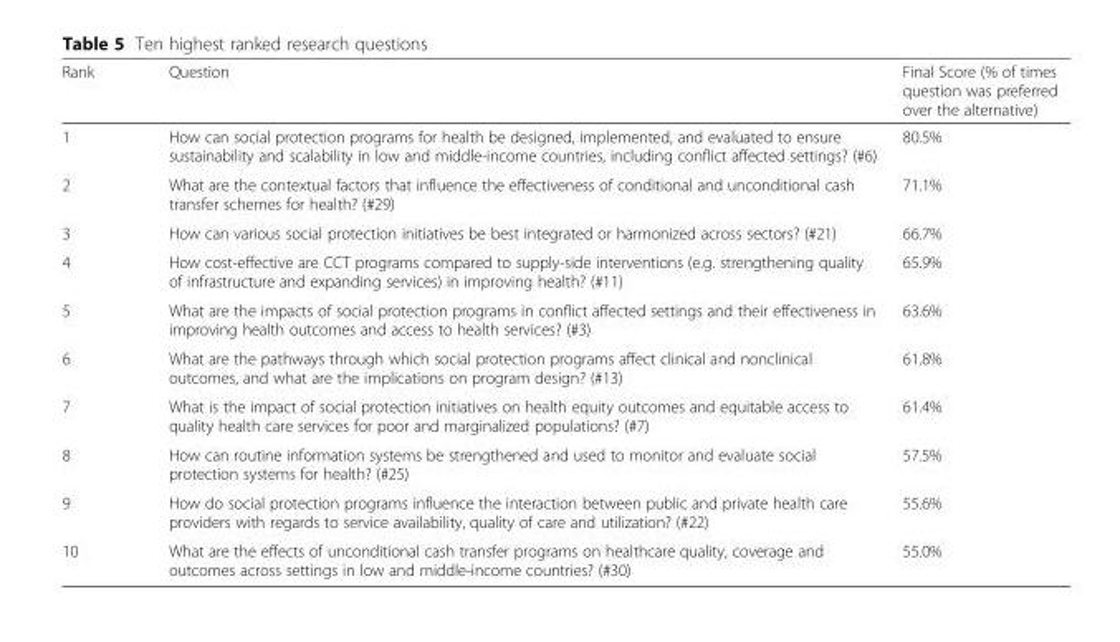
<table><thead><tr><td>Rank</td><td>Question</td><td>Final Score (% of times question was preferred over the alternative)</td></tr></thead><tbody><tr><td>1</td><td>How can social protection programs for health be designed, implemented, and evaluated to ensure sustainability and scalability in low and middle-income countries, including conflict affected settings? (#6)</td><td>80.5%</td></tr><tr><td>2</td><td>What are the contextual factors that influence the effectiveness of conditional and unconditional cash transfer schemes for health? (#29)</td><td>71.1%</td></tr><tr><td>3</td><td>How can various social protection initiatives be best integrated or harmonized across sectors? (#21)</td><td>66.7%</td></tr><tr><td>4</td><td>How cost-effective are CCT programs compared to supply-side interventions (e.g. strengthening quality of infrastructure and expanding services) in improving health? (#11)</td><td>65.9%</td></tr><tr><td>5</td><td>What are the impacts of social protection programs in conflict affected settings and their effectiveness in improving health outcomes and access to health services? (#3)</td><td>63.6%</td></tr><tr><td>6</td><td>What are the pathways through which social protection programs affect clinical and nonclinical outcomes, and what are the implications on program design? (#13)</td><td>61.8%</td></tr><tr><td>7</td><td>What is the impact of social protection initiatives on health equity outcomes and equitable access to quality health care services for poor and marginalized populations? (#7)</td><td>61.4%</td></tr><tr><td>8</td><td>How can routine information systems be strengthened and used to monitor and evaluate social protection systems for health? (#25)</td><td>57.5%</td></tr><tr><td>9</td><td>How do social protection programs influence the interaction between public and private health care providers with regards to service availability, quality of care and utilization? (#22)</td><td>55.6%</td></tr><tr><td>10</td><td>What are the effects of unconditional cash transfer programs on healthcare quality, coverage and outcomes across settings in low and middle-income countries? (#30)</td><td>55.0%</td></tr></tbody></table>